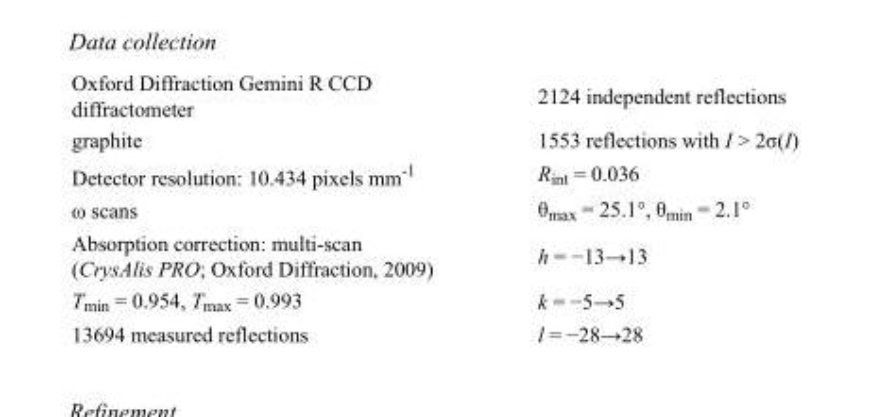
<table><tbody><tr><td>Oxford Diffraction Gemini R CCD diffractometer</td><td>2124 independent reflections</td></tr><tr><td>graphite</td><td>1553 reflections with I &gt; 2σ(I)</td></tr><tr><td>Detector resolution: 10.434 pixels mm<sup>-1</sup></td><td>R<sub>int</sub> = 0.036</td></tr><tr><td>ω scans</td><td>θ<sub>max</sub> = 25.1°, θ<sub>min</sub> = 2.1°</td></tr><tr><td>Absorption correction: multi-scan (CrysAlis PRO; Oxford Diffraction, 2009)</td><td>h = −13→13</td></tr><tr><td>T<sub>min</sub> = 0.954, T<sub>max</sub> = 0.993</td><td>k = −5→5</td></tr><tr><td>13694 measured reflections</td><td>l = −28→28</td></tr></tbody></table>